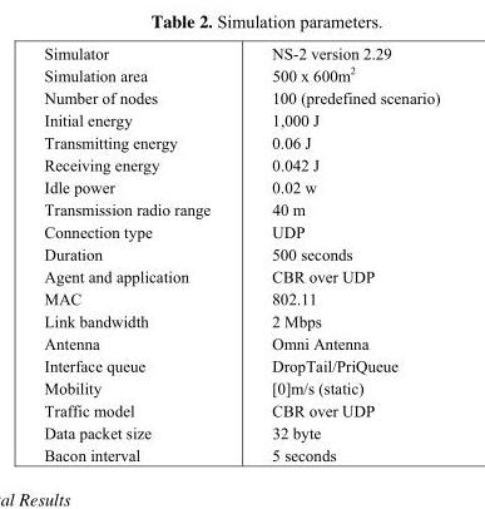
<table><tbody><tr><td>Simulator</td><td>NS-2 version 2.29</td></tr><tr><td>Simulation area</td><td>500 x 600m2</td></tr><tr><td>Number of nodes</td><td>100 (predefined scenario)</td></tr><tr><td>Initial energy</td><td>1,000 J</td></tr><tr><td>Transmitting energy</td><td>0.06 J</td></tr><tr><td>Receiving energy</td><td>0.042 J</td></tr><tr><td>Idle power</td><td>0.02 w</td></tr><tr><td>Transmission radio range</td><td>40 m</td></tr><tr><td>Connection type</td><td>UDP</td></tr><tr><td>Duration</td><td>500 seconds</td></tr><tr><td>Agent and application</td><td>CBR over UDP</td></tr><tr><td>MAC</td><td>802.11</td></tr><tr><td>Link bandwidth</td><td>2 Mbps</td></tr><tr><td>Antenna</td><td>Omni Antenna</td></tr><tr><td>Interface queue</td><td>DropTail/PriQueue</td></tr><tr><td>Mobility</td><td>[0]m/s (static)</td></tr><tr><td>Traffic model</td><td>CBR over UDP</td></tr><tr><td>Data packet size</td><td>32 byte</td></tr><tr><td>Bacon interval</td><td>5 seconds</td></tr></tbody></table>